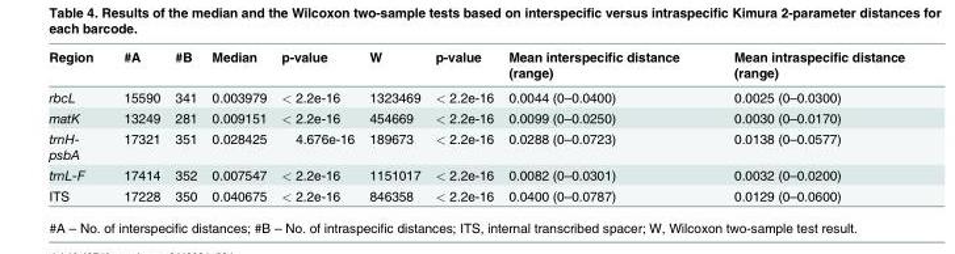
<table><thead><tr><td>Region</td><td>#A</td><td>#B</td><td>Median</td><td>p-value</td><td>W</td><td>p-value</td><td>Mean interspecific distance (range)</td><td>Mean intraspecific distance (range)</td></tr></thead><tbody><tr><td>rbcL</td><td>15590</td><td>341</td><td>0.003979</td><td>&lt; 2.2e-16</td><td>1323469</td><td>&lt; 2.2e-16</td><td>0.0044 (0–0.0400)</td><td>0.0025 (0–0.0300)</td></tr><tr><td>matK</td><td>13249</td><td>281</td><td>0.009151</td><td>&lt; 2.2e-16</td><td>454669</td><td>&lt; 2.2e-16</td><td>0.0099 (0–0.0250)</td><td>0.0030 (0–0.0170)</td></tr><tr><td>trnH- psbA</td><td>17321</td><td>351</td><td>0.028425</td><td>4.676e-16</td><td>189673</td><td>&lt; 2.2e-16</td><td>0.0288 (0–0.0723)</td><td>0.0138 (0–0.0577)</td></tr><tr><td>trnL-F</td><td>17414</td><td>352</td><td>0.007547</td><td>&lt; 2.2e-16</td><td>1151017</td><td>&lt; 2.2e-16</td><td>0.0082 (0–0.0301)</td><td>0.0032 (0–0.0200)</td></tr><tr><td>ITS</td><td>17228</td><td>350</td><td>0.040675</td><td>&lt; 2.2e-16</td><td>846358</td><td>&lt; 2.2e-16</td><td>0.0400 (0–0.0787)</td><td>0.0129 (0–0.0600)</td></tr></tbody></table>